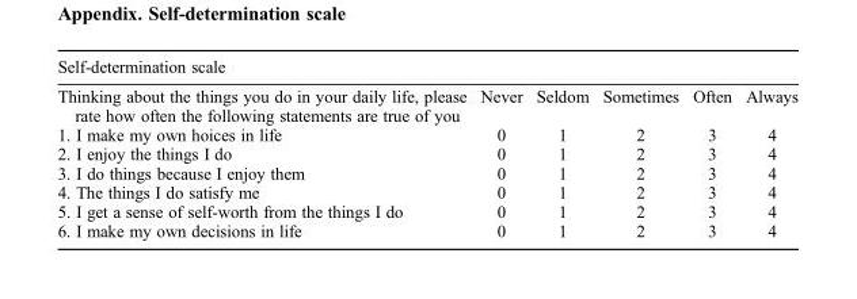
<table><thead><tr><td colspan="6">Self-determination scale</td></tr><tr><td>Thinking about the things you do in your daily life, please rate how often the following statements are true of you</td><td>Never</td><td>Seldom</td><td>Sometimes</td><td>Often</td><td>Always</td></tr></thead><tbody><tr><td>1. I make my own hoices in life</td><td>0</td><td>1</td><td>2</td><td>3</td><td>4</td></tr><tr><td>2. I enjoy the things I do</td><td>0</td><td>1</td><td>2</td><td>3</td><td>4</td></tr><tr><td>3. I do things because I enjoy them</td><td>0</td><td>1</td><td>2</td><td>3</td><td>4</td></tr><tr><td>4. The things I do satisfy me</td><td>0</td><td>1</td><td>2</td><td>3</td><td>4</td></tr><tr><td>5. I get a sense of self-worth from the things I do</td><td>0</td><td>1</td><td>2</td><td>3</td><td>4</td></tr><tr><td>6. I make my own decisions in life</td><td>0</td><td>1</td><td>2</td><td>3</td><td>4</td></tr></tbody></table>